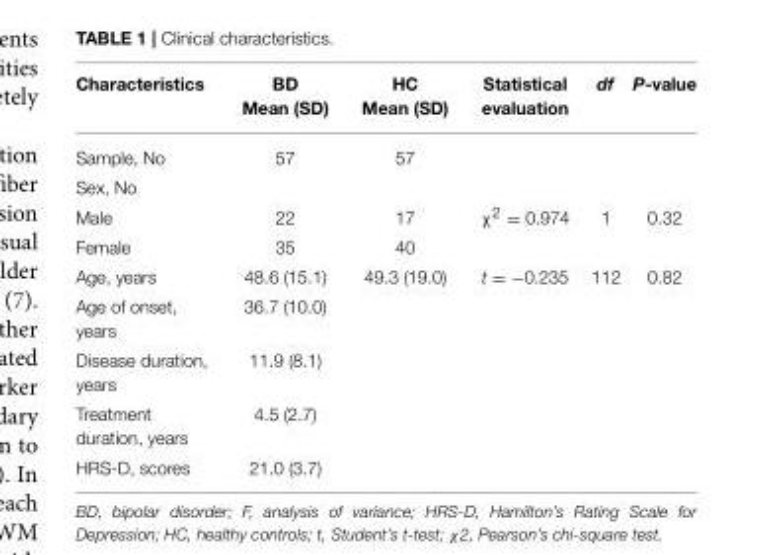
<table><thead><tr><td>Characteristics</td><td>BD Mean (SD)</td><td>HC Mean (SD)</td><td>Statistical evaluation</td><td>df</td><td>P-value</td></tr></thead><tbody><tr><td>Sample, No</td><td>57</td><td>57</td><td></td><td></td><td></td></tr><tr><td colspan="6">Sex, No</td></tr><tr><td>Male</td><td>22</td><td>17</td><td>χ<sup>2</sup> = 0.974</td><td>1</td><td>0.32</td></tr><tr><td>Female</td><td>35</td><td>40</td><td></td><td></td><td></td></tr><tr><td>Age, years</td><td>48.6 (15.1)</td><td>49.3 (19.0)</td><td>t = −0.235</td><td>112</td><td>0.82</td></tr><tr><td>Age of onset, years</td><td>36.7 (10.0)</td><td></td><td></td><td></td><td></td></tr><tr><td>Disease duration, years</td><td>11.9 (8.1)</td><td></td><td></td><td></td><td></td></tr><tr><td>Treatment duration, years</td><td>4.5 (2.7)</td><td></td><td></td><td></td><td></td></tr><tr><td>HRS-D, scores</td><td>21.0 (3.7)</td><td></td><td></td><td></td><td></td></tr></tbody></table>